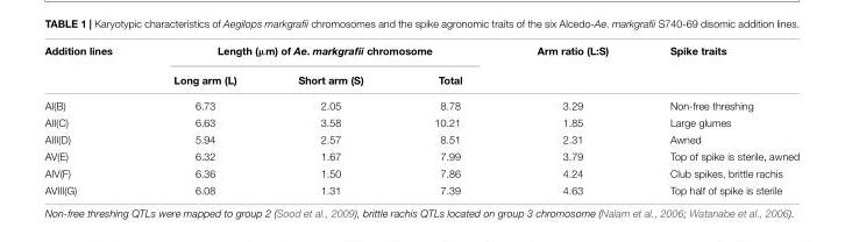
<table><thead><tr><td rowspan="2">Addition lines</td><td colspan="3">Length (µm) of Ae. markgrafii chromosome</td><td rowspan="2">Arm ratio (L:S)</td><td rowspan="2">Spike traits</td></tr><tr><td>Long arm (L)</td><td>Short arm (S)</td><td>Total</td></tr></thead><tbody><tr><td>AI(B)</td><td>6.73</td><td>2.05</td><td>8.78</td><td>3.29</td><td>Non-free threshing</td></tr><tr><td>AII(C)</td><td>6.63</td><td>3.58</td><td>10.21</td><td>1.85</td><td>Large glumes</td></tr><tr><td>AIII(D)</td><td>5.94</td><td>2.57</td><td>8.51</td><td>2.31</td><td>Awned</td></tr><tr><td>AV(E)</td><td>6.32</td><td>1.67</td><td>7.99</td><td>3.79</td><td>Top of spike is sterile, awned</td></tr><tr><td>AIV(F)</td><td>6.36</td><td>1.50</td><td>7.86</td><td>4.24</td><td>Club spikes, brittle rachis</td></tr><tr><td>AVIII(G)</td><td>6.08</td><td>1.31</td><td>7.39</td><td>4.63</td><td>Top half of spike is sterile</td></tr></tbody></table>